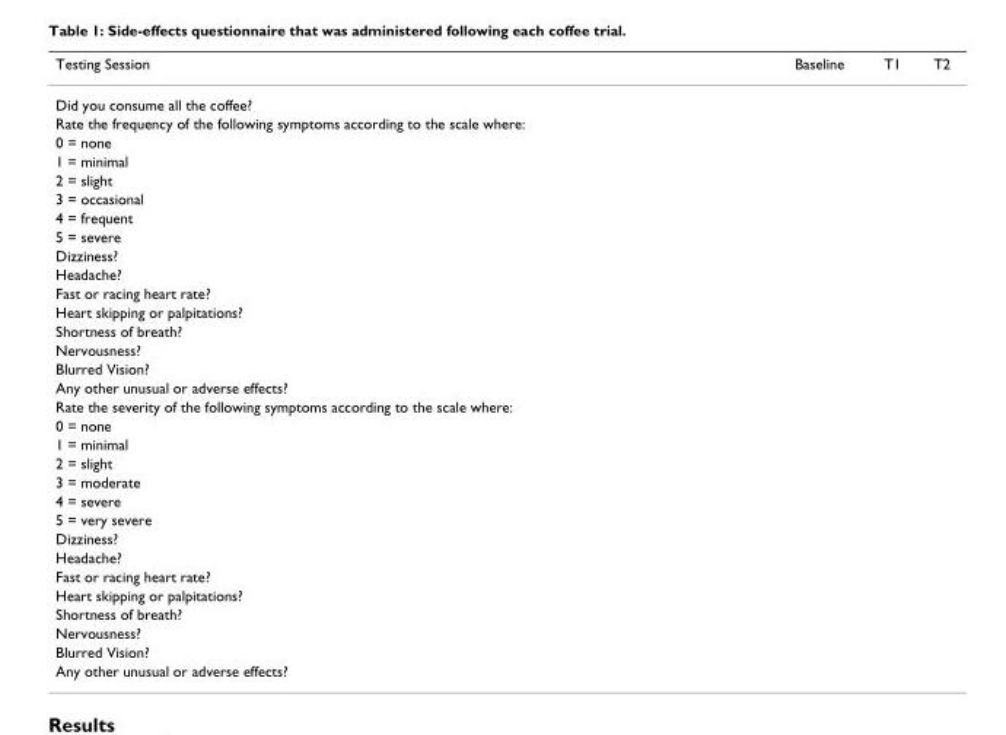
<table><thead><tr><td>Testing Session</td><td>Baseline</td><td>T1</td><td>T2</td></tr></thead><tbody><tr><td colspan="4">Did you consume all the coffee?</td></tr><tr><td colspan="4">Rate the frequency of the following symptoms according to the scale where:</td></tr><tr><td colspan="4">0 = none</td></tr><tr><td colspan="4">1 = minimal</td></tr><tr><td colspan="4">2 = slight</td></tr><tr><td colspan="4">3 = occasional</td></tr><tr><td colspan="4">4 = frequent</td></tr><tr><td colspan="4">5 = severe</td></tr><tr><td colspan="4">Dizziness?</td></tr><tr><td colspan="4">Headache?</td></tr><tr><td colspan="4">Fast or racing heart rate?</td></tr><tr><td colspan="4">Heart skipping or palpitations?</td></tr><tr><td colspan="4">Shortness of breath?</td></tr><tr><td colspan="4">Nervousness?</td></tr><tr><td colspan="4">Blurred Vision?</td></tr><tr><td colspan="4">Any other unusual or adverse effects?</td></tr><tr><td colspan="4">Rate the severity of the following symptoms according to the scale where:</td></tr><tr><td colspan="4">0 = none</td></tr><tr><td colspan="4">1 = minimal</td></tr><tr><td colspan="4">2 = slight</td></tr><tr><td colspan="4">3 = moderate</td></tr><tr><td colspan="4">4 = severe</td></tr><tr><td colspan="4">5 = very severe</td></tr><tr><td colspan="4">Dizziness?</td></tr><tr><td colspan="4">Headache?</td></tr><tr><td colspan="4">Fast or racing heart rate?</td></tr><tr><td colspan="4">Heart skipping or palpitations?</td></tr><tr><td colspan="4">Shortness of breath?</td></tr><tr><td colspan="4">Nervousness?</td></tr><tr><td colspan="4">Blurred Vision?</td></tr><tr><td>Any other unusual or adverse effects?</td><td></td><td></td><td></td></tr></tbody></table>